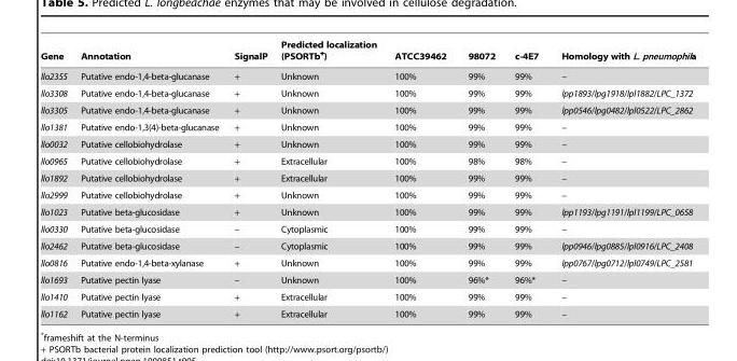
<table><thead><tr><td>Gene</td><td>Annotation</td><td>SignalP</td><td>Predicted localization (PSORTb<sup>+</sup>)</td><td>ATCC39462</td><td>98072</td><td>c-4E7</td><td>Homology with L. pneumophila</td></tr></thead><tbody><tr><td>llo2355</td><td>Putative endo-1,4-beta-glucanase</td><td>+</td><td>Unknown</td><td>100%</td><td>99%</td><td>99%</td><td>–</td></tr><tr><td>llo3308</td><td>Putative endo-1,4-beta-glucanase</td><td>+</td><td>Unknown</td><td>100%</td><td>99%</td><td>99%</td><td>lpp1893/lpg1918/lpl1882/LPC_1372</td></tr><tr><td>llo3305</td><td>Putative endo-1,4-beta-glucanase</td><td>+</td><td>Unknown</td><td>100%</td><td>99%</td><td>99%</td><td>lpp0546/lpg0482/lpl0522/LPC_2862</td></tr><tr><td>llo1381</td><td>Putative endo-1,3(4)-beta-glucanase</td><td>+</td><td>Unknown</td><td>100%</td><td>99%</td><td>99%</td><td>–</td></tr><tr><td>llo0032</td><td>Putative cellobiohydrolase</td><td>+</td><td>Unknown</td><td>100%</td><td>99%</td><td>99%</td><td>–</td></tr><tr><td>llo0965</td><td>Putative cellobiohydrolase</td><td>+</td><td>Extracellular</td><td>100%</td><td>98%</td><td>98%</td><td>–</td></tr><tr><td>llo1892</td><td>Putative cellobiohydrolase</td><td>+</td><td>Extracellular</td><td>100%</td><td>99%</td><td>99%</td><td>–</td></tr><tr><td>llo2999</td><td>Putative cellobiohydrolase</td><td>+</td><td>Unknown</td><td>100%</td><td>99%</td><td>99%</td><td>–</td></tr><tr><td>llo1023</td><td>Putative beta-glucosidase</td><td>+</td><td>Unknown</td><td>100%</td><td>99%</td><td>99%</td><td>lpp1193/lpg1191/lpl1199/LPC_0658</td></tr><tr><td>llo0330</td><td>Putative beta-glucosidase</td><td>–</td><td>Cytoplasmic</td><td>100%</td><td>99%</td><td>99%</td><td>–</td></tr><tr><td>llo2462</td><td>Putative beta-glucosidase</td><td>–</td><td>Cytoplasmic</td><td>100%</td><td>99%</td><td>99%</td><td>lpp0946/lpg0885/lpl0916/LPC_2408</td></tr><tr><td>llo0816</td><td>Putative endo-1,4-beta-xylanase</td><td>+</td><td>Unknown</td><td>100%</td><td>99%</td><td>99%</td><td>lpp0767/lpg0712/lpl0749/LPC_2581</td></tr><tr><td>llo1693</td><td>Putative pectin lyase</td><td>–</td><td>Unknown</td><td>100%</td><td>96%*</td><td>96%*</td><td>–</td></tr><tr><td>llo1410</td><td>Putative pectin lyase</td><td>+</td><td>Extracellular</td><td>100%</td><td>99%</td><td>99%</td><td>–</td></tr><tr><td>llo1162</td><td>Putative pectin lyase</td><td>+</td><td>Extracellular</td><td>100%</td><td>99%</td><td>99%</td><td>–</td></tr></tbody></table>